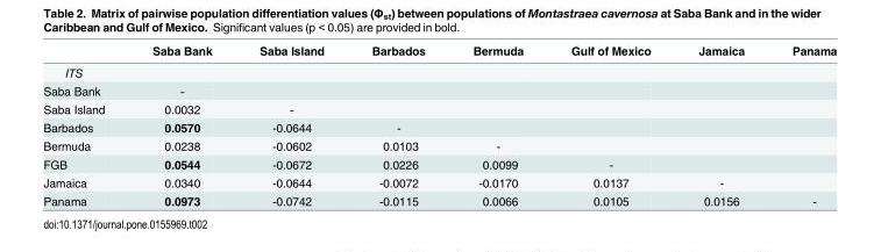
<table><thead><tr><td></td><td>Saba Bank</td><td>Saba Island</td><td>Barbados</td><td>Bermuda</td><td>Gulf of Mexico</td><td>Jamaica</td><td>Panama</td></tr></thead><tbody><tr><td colspan="8">ITS</td></tr><tr><td>Saba Bank</td><td>-</td><td></td><td></td><td></td><td></td><td></td><td></td></tr><tr><td>Saba Island</td><td>0.0032</td><td>-</td><td></td><td></td><td></td><td></td><td></td></tr><tr><td>Barbados</td><td>0.0570</td><td>-0.0644</td><td>-</td><td></td><td></td><td></td><td></td></tr><tr><td>Bermuda</td><td>0.0238</td><td>-0.0602</td><td>0.0103</td><td>-</td><td></td><td></td><td></td></tr><tr><td>FGB</td><td>0.0544</td><td>-0.0672</td><td>0.0226</td><td>0.0099</td><td>-</td><td></td><td></td></tr><tr><td>Jamaica</td><td>0.0340</td><td>-0.0644</td><td>-0.0072</td><td>-0.0170</td><td>0.0137</td><td>-</td><td></td></tr><tr><td>Panama</td><td>0.0973</td><td>-0.0742</td><td>-0.0115</td><td>0.0066</td><td>0.0105</td><td>0.0156</td><td>-</td></tr></tbody></table>